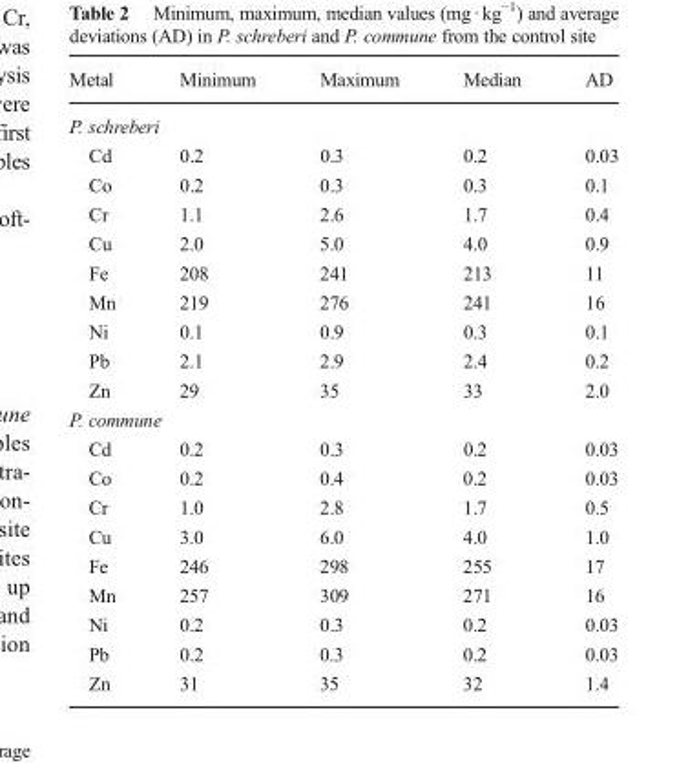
<table><thead><tr><td>Metal</td><td>Minimum</td><td>Maximum</td><td>Median</td><td>AD</td></tr></thead><tbody><tr><td colspan="5">P. schreberi</td></tr><tr><td>Cd</td><td>0.2</td><td>0.3</td><td>0.2</td><td>0.03</td></tr><tr><td>Co</td><td>0.2</td><td>0.3</td><td>0.3</td><td>0.1</td></tr><tr><td>Cr</td><td>1.1</td><td>2.6</td><td>1.7</td><td>0.4</td></tr><tr><td>Cu</td><td>2.0</td><td>5.0</td><td>4.0</td><td>0.9</td></tr><tr><td>Fe</td><td>208</td><td>241</td><td>213</td><td>11</td></tr><tr><td>Mn</td><td>219</td><td>276</td><td>241</td><td>16</td></tr><tr><td>Ni</td><td>0.1</td><td>0.9</td><td>0.3</td><td>0.1</td></tr><tr><td>Pb</td><td>2.1</td><td>2.9</td><td>2.4</td><td>0.2</td></tr><tr><td>Zn</td><td>29</td><td>35</td><td>33</td><td>2.0</td></tr><tr><td colspan="5">P. commune</td></tr><tr><td>Cd</td><td>0.2</td><td>0.3</td><td>0.2</td><td>0.03</td></tr><tr><td>Co</td><td>0.2</td><td>0.4</td><td>0.2</td><td>0.03</td></tr><tr><td>Cr</td><td>1.0</td><td>2.8</td><td>1.7</td><td>0.5</td></tr><tr><td>Cu</td><td>3.0</td><td>6.0</td><td>4.0</td><td>1.0</td></tr><tr><td>Fe</td><td>246</td><td>298</td><td>255</td><td>17</td></tr><tr><td>Mn</td><td>257</td><td>309</td><td>271</td><td>16</td></tr><tr><td>Ni</td><td>0.2</td><td>0.3</td><td>0.2</td><td>0.03</td></tr><tr><td>Pb</td><td>0.2</td><td>0.3</td><td>0.2</td><td>0.03</td></tr><tr><td>Zn</td><td>31</td><td>35</td><td>32</td><td>1.4</td></tr></tbody></table>